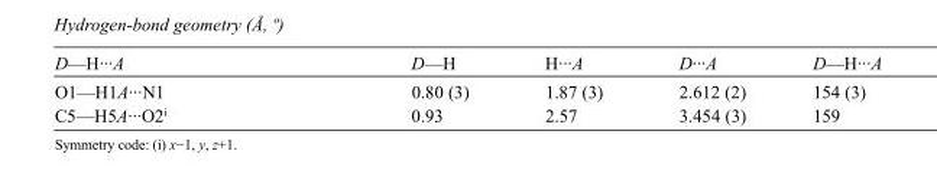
<table><tbody><tr><td>D—H···A</td><td>D—H</td><td>H···A</td><td>D···A</td><td>D—H···A</td></tr><tr><td>O1—H1A···N1</td><td>0.80 (3)</td><td>1.87 (3)</td><td>2.612 (2)</td><td>154 (3)</td></tr><tr><td>C5—H5A···O2<sup>i</sup></td><td>0.93</td><td>2.57</td><td>3.454 (3)</td><td>159</td></tr></tbody></table>